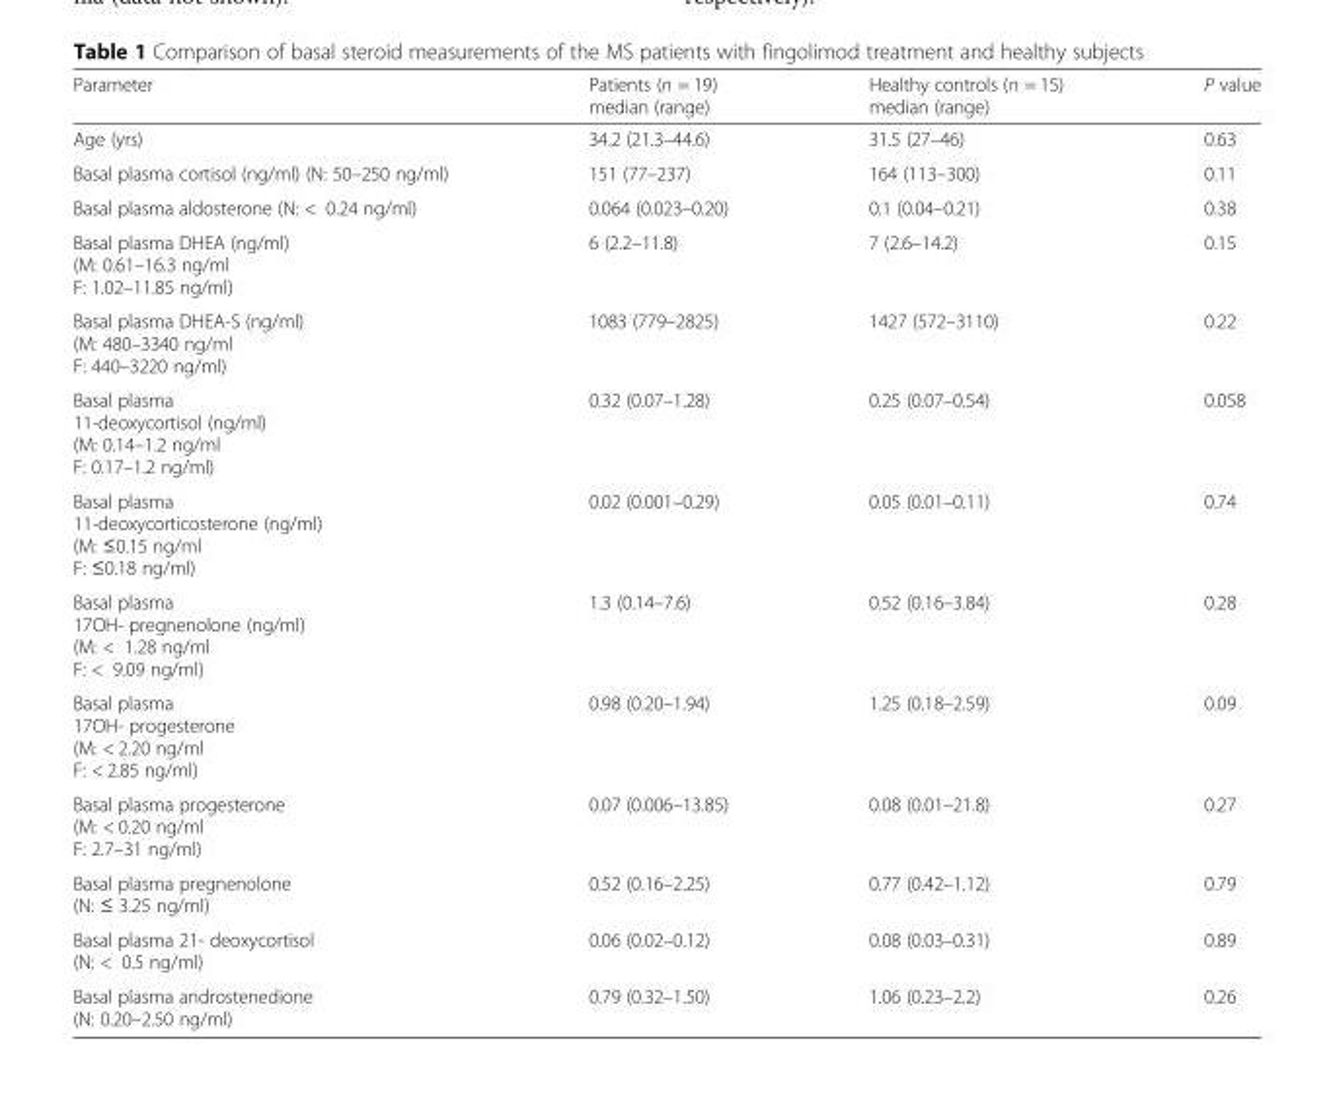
<table><thead><tr><td>Parameter</td><td>Patients (n = 19) median (range)</td><td>Healthy controls (n = 15) median (range)</td><td>P value</td></tr></thead><tbody><tr><td>Age (yrs)</td><td>34.2 (21.3–44.6)</td><td>31.5 (27–46)</td><td>0.63</td></tr><tr><td>Basal plasma cortisol (ng/ml) (N: 50–250 ng/ml)</td><td>151 (77–237)</td><td>164 (113–300)</td><td>0.11</td></tr><tr><td>Basal plasma aldosterone (N: &lt; 0.24 ng/ml)</td><td>0.064 (0.023–0.20)</td><td>0.1 (0.04–0.21)</td><td>0.38</td></tr><tr><td>Basal plasma DHEA (ng/ml) (M: 0.61–16.3 ng/ml F: 1.02–11.85 ng/ml)</td><td>6 (2.2–11.8)</td><td>7 (2.6–14.2)</td><td>0.15</td></tr><tr><td>Basal plasma DHEA-S (ng/ml) (M: 480–3340 ng/ml F: 440–3220 ng/ml)</td><td>1083 (779–2825)</td><td>1427 (572–3110)</td><td>0.22</td></tr><tr><td>Basal plasma 11-deoxycortisol (ng/ml) (M: 0.14–1.2 ng/ml F: 0.17–1.2 ng/ml)</td><td>0.32 (0.07–1.28)</td><td>0.25 (0.07–0.54)</td><td>0.058</td></tr><tr><td>Basal plasma 11-deoxycorticosterone (ng/ml) (M: ≤0.15 ng/ml F: ≤0.18 ng/ml)</td><td>0.02 (0.001–0.29)</td><td>0.05 (0.01–0.11)</td><td>0.74</td></tr><tr><td>Basal plasma 17OH- pregnenolone (ng/ml) (M: &lt; 1.28 ng/ml F: &lt; 9.09 ng/ml)</td><td>1.3 (0.14–7.6)</td><td>0.52 (0.16–3.84)</td><td>0.28</td></tr><tr><td>Basal plasma 17OH- progesterone (M: &lt; 2.20 ng/ml F: &lt; 2.85 ng/ml)</td><td>0.98 (0.20–1.94)</td><td>1.25 (0.18–2.59)</td><td>0.09</td></tr><tr><td>Basal plasma progesterone (M: &lt; 0.20 ng/ml F: 2.7–31 ng/ml)</td><td>0.07 (0.006–13.85)</td><td>0.08 (0.01–21.8)</td><td>0.27</td></tr><tr><td>Basal plasma pregnenolone (N: ≤ 3.25 ng/ml)</td><td>0.52 (0.16–2.25)</td><td>0.77 (0.42–1.12)</td><td>0.79</td></tr><tr><td>Basal plasma 21- deoxycortisol (N: &lt; 0.5 ng/ml)</td><td>0.06 (0.02–0.12)</td><td>0.08 (0.03–0.31)</td><td>0.89</td></tr><tr><td>Basal plasma androstenedione (N: 0.20–2.50 ng/ml)</td><td>0.79 (0.32–1.50)</td><td>1.06 (0.23–2.2)</td><td>0.26</td></tr></tbody></table>